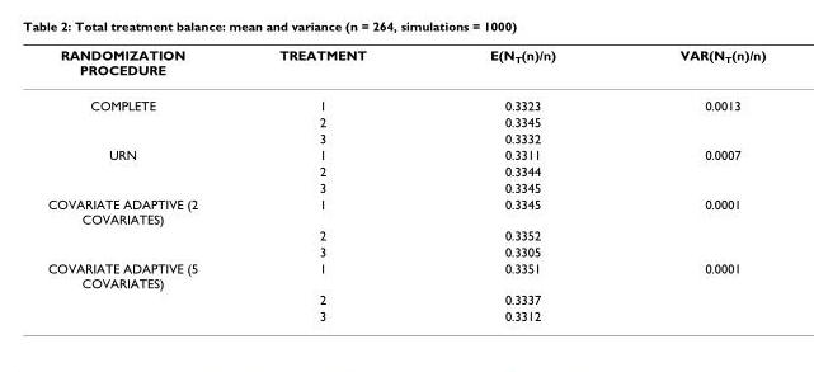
<table><thead><tr><td>RANDOMIZATION PROCEDURE</td><td>TREATMENT</td><td>E(N<sub>T</sub>(n)/n)</td><td>VAR(N<sub>T</sub>(n)/n)</td></tr></thead><tbody><tr><td rowspan="3">COMPLETE</td><td>1</td><td>0.3323</td><td>0.0013</td></tr><tr><td>2</td><td>0.3345</td><td></td></tr><tr><td>3</td><td>0.3332</td><td></td></tr><tr><td rowspan="3">URN</td><td>1</td><td>0.3311</td><td>0.0007</td></tr><tr><td>2</td><td>0.3344</td><td></td></tr><tr><td>3</td><td>0.3345</td><td></td></tr><tr><td rowspan="3">COVARIATE ADAPTIVE (2 COVARIATES)</td><td>1</td><td>0.3345</td><td>0.0001</td></tr><tr><td>2</td><td>0.3352</td><td></td></tr><tr><td>3</td><td>0.3305</td><td></td></tr><tr><td rowspan="3">COVARIATE ADAPTIVE (5 COVARIATES)</td><td>1</td><td>0.3351</td><td>0.0001</td></tr><tr><td>2</td><td>0.3337</td><td></td></tr><tr><td>3</td><td>0.3312</td><td></td></tr></tbody></table>